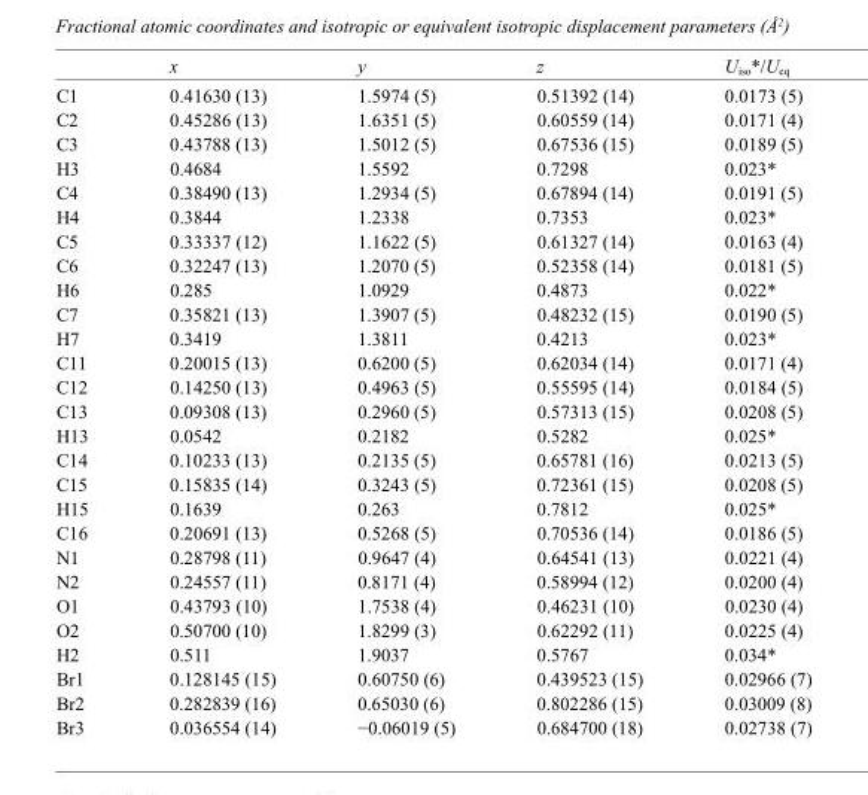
<table><thead><tr><td></td><td>x</td><td>y</td><td>z</td><td>U<sub>iso</sub>*/U<sub>eq</sub></td></tr></thead><tbody><tr><td>C1</td><td>0.41630 (13)</td><td>1.5974 (5)</td><td>0.51392 (14)</td><td>0.0173 (5)</td></tr><tr><td>C2</td><td>0.45286 (13)</td><td>1.6351 (5)</td><td>0.60559 (14)</td><td>0.0171 (4)</td></tr><tr><td>C3</td><td>0.43788 (13)</td><td>1.5012 (5)</td><td>0.67536 (15)</td><td>0.0189 (5)</td></tr><tr><td>H3</td><td>0.4684</td><td>1.5592</td><td>0.7298</td><td>0.023*</td></tr><tr><td>C4</td><td>0.38490 (13)</td><td>1.2934 (5)</td><td>0.67894 (14)</td><td>0.0191 (5)</td></tr><tr><td>H4</td><td>0.3844</td><td>1.2338</td><td>0.7353</td><td>0.023*</td></tr><tr><td>C5</td><td>0.33337 (12)</td><td>1.1622 (5)</td><td>0.61327 (14)</td><td>0.0163 (4)</td></tr><tr><td>C6</td><td>0.32247 (13)</td><td>1.2070 (5)</td><td>0.52358 (14)</td><td>0.0181 (5)</td></tr><tr><td>H6</td><td>0.285</td><td>1.0929</td><td>0.4873</td><td>0.022*</td></tr><tr><td>C7</td><td>0.35821 (13)</td><td>1.3907 (5)</td><td>0.48232 (15)</td><td>0.0190 (5)</td></tr><tr><td>H7</td><td>0.3419</td><td>1.3811</td><td>0.4213</td><td>0.023*</td></tr><tr><td>C11</td><td>0.20015 (13)</td><td>0.6200 (5)</td><td>0.62034 (14)</td><td>0.0171 (4)</td></tr><tr><td>C12</td><td>0.14250 (13)</td><td>0.4963 (5)</td><td>0.55595 (14)</td><td>0.0184 (5)</td></tr><tr><td>C13</td><td>0.09308 (13)</td><td>0.2960 (5)</td><td>0.57313 (15)</td><td>0.0208 (5)</td></tr><tr><td>H13</td><td>0.0542</td><td>0.2182</td><td>0.5282</td><td>0.025*</td></tr><tr><td>C14</td><td>0.10233 (13)</td><td>0.2135 (5)</td><td>0.65781 (16)</td><td>0.0213 (5)</td></tr><tr><td>C15</td><td>0.15835 (14)</td><td>0.3243 (5)</td><td>0.72361 (15)</td><td>0.0208 (5)</td></tr><tr><td>H15</td><td>0.1639</td><td>0.263</td><td>0.7812</td><td>0.025*</td></tr><tr><td>C16</td><td>0.20691 (13)</td><td>0.5268 (5)</td><td>0.70536 (14)</td><td>0.0186 (5)</td></tr><tr><td>N1</td><td>0.28798 (11)</td><td>0.9647 (4)</td><td>0.64541 (13)</td><td>0.0221 (4)</td></tr><tr><td>N2</td><td>0.24557 (11)</td><td>0.8171 (4)</td><td>0.58994 (12)</td><td>0.0200 (4)</td></tr><tr><td>O1</td><td>0.43793 (10)</td><td>1.7538 (4)</td><td>0.46231 (10)</td><td>0.0230 (4)</td></tr><tr><td>O2</td><td>0.50700 (10)</td><td>1.8299 (3)</td><td>0.62292 (11)</td><td>0.0225 (4)</td></tr><tr><td>H2</td><td>0.511</td><td>1.9037</td><td>0.5767</td><td>0.034*</td></tr><tr><td>Br1</td><td>0.128145 (15)</td><td>0.60750 (6)</td><td>0.439523 (15)</td><td>0.02966 (7)</td></tr><tr><td>Br2</td><td>0.282839 (16)</td><td>0.65030 (6)</td><td>0.802286 (15)</td><td>0.03009 (8)</td></tr><tr><td>Br3</td><td>0.036554 (14)</td><td>−0.06019 (5)</td><td>0.684700 (18)</td><td>0.02738 (7)</td></tr></tbody></table>